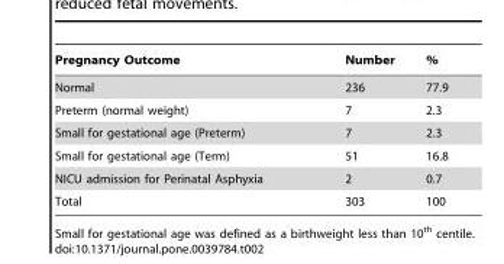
<table><thead><tr><td>Pregnancy Outcome</td><td>Number</td><td>%</td></tr></thead><tbody><tr><td>Normal</td><td>236</td><td>77.9</td></tr><tr><td>Preterm (normal weight)</td><td>7</td><td>2.3</td></tr><tr><td>Small for gestational age (Preterm)</td><td>7</td><td>2.3</td></tr><tr><td>Small for gestational age (Term)</td><td>51</td><td>16.8</td></tr><tr><td>NICU admission for Perinatal Asphyxia</td><td>2</td><td>0.7</td></tr><tr><td>Total</td><td>303</td><td>100</td></tr></tbody></table>